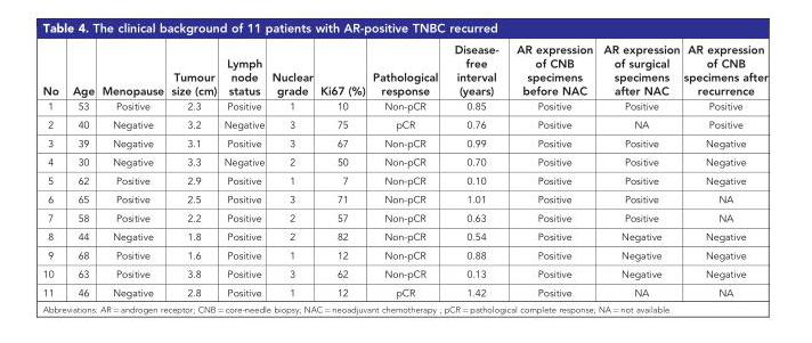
<table><thead><tr><td>No</td><td>Age</td><td>Menopause</td><td>Tumour size (cm)</td><td>Lymph node status</td><td>Nuclear grade</td><td>Ki67 (%)</td><td>Pathological response</td><td>Disease- free interval (years)</td><td>AR expression of CNB specimens before NAC</td><td>AR expression of surgical specimens after NAC</td><td>AR expression of CNB specimens after recurrence</td></tr></thead><tbody><tr><td>1</td><td>53</td><td>Positive</td><td>2.3</td><td>Positive</td><td>1</td><td>10</td><td>Non-pCR</td><td>0.85</td><td>Positive</td><td>Positive</td><td>Positive</td></tr><tr><td>2</td><td>40</td><td>Negative</td><td>3.2</td><td>Negative</td><td>3</td><td>75</td><td>pCR</td><td>0.76</td><td>Positive</td><td>NA</td><td>Positive</td></tr><tr><td>3</td><td>39</td><td>Negative</td><td>3.1</td><td>Positive</td><td>3</td><td>67</td><td>Non-pCR</td><td>0.99</td><td>Positive</td><td>Positive</td><td>Negative</td></tr><tr><td>4</td><td>30</td><td>Negative</td><td>3.3</td><td>Negative</td><td>2</td><td>50</td><td>Non-pCR</td><td>0.70</td><td>Positive</td><td>Positive</td><td>Negative</td></tr><tr><td>5</td><td>62</td><td>Positive</td><td>2.9</td><td>Positive</td><td>1</td><td>7</td><td>Non-pCR</td><td>0.10</td><td>Positive</td><td>Positive</td><td>Negative</td></tr><tr><td>6</td><td>65</td><td>Positive</td><td>2.5</td><td>Positive</td><td>3</td><td>71</td><td>Non-pCR</td><td>1.01</td><td>Positive</td><td>Positive</td><td>NA</td></tr><tr><td>7</td><td>58</td><td>Positive</td><td>2.2</td><td>Positive</td><td>2</td><td>57</td><td>Non-pCR</td><td>0.63</td><td>Positive</td><td>Positive</td><td>NA</td></tr><tr><td>8</td><td>44</td><td>Negative</td><td>1.8</td><td>Positive</td><td>2</td><td>82</td><td>Non-pCR</td><td>0.54</td><td>Positive</td><td>Negative</td><td>Negative</td></tr><tr><td>9</td><td>68</td><td>Positive</td><td>1.6</td><td>Positive</td><td>1</td><td>12</td><td>Non-pCR</td><td>0.88</td><td>Positive</td><td>Negative</td><td>Negative</td></tr><tr><td>10</td><td>63</td><td>Positive</td><td>3.8</td><td>Positive</td><td>3</td><td>62</td><td>Non-pCR</td><td>0.13</td><td>Positive</td><td>Negative</td><td>Negative</td></tr><tr><td>11</td><td>46</td><td>Negative</td><td>2.8</td><td>Positive</td><td>1</td><td>12</td><td>pCR</td><td>1.42</td><td>Positive</td><td>NA</td><td>NA</td></tr></tbody></table>